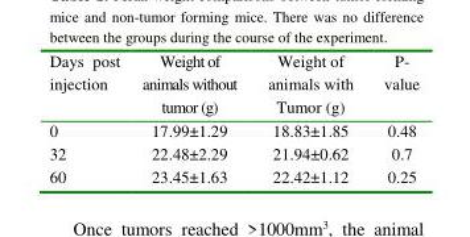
<table><thead><tr><td>Days post injection</td><td>Weight of animals without tumor (g)</td><td>Weight of animals with Tumor (g)</td><td>P- value</td></tr></thead><tbody><tr><td>0</td><td>17.99±1.29</td><td>18.83±1.85</td><td>0.48</td></tr><tr><td>32</td><td>22.48±2.29</td><td>21.94±0.62</td><td>0.7</td></tr><tr><td>60</td><td>23.45±1.63</td><td>22.42±1.12</td><td>0.25</td></tr></tbody></table>